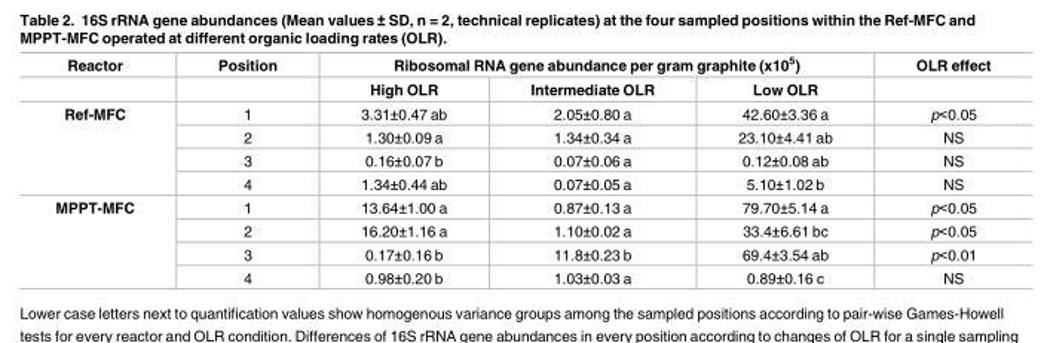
<table><thead><tr><td rowspan="2">Reactor</td><td rowspan="2">Position</td><td colspan="3">Ribosomal RNA gene abundance per gram graphite (x10<sup>5</sup>)</td><td rowspan="2">OLR effect</td></tr><tr><td>High OLR</td><td>Intermediate OLR</td><td>Low OLR</td></tr></thead><tbody><tr><td rowspan="4">Ref-MFC</td><td>1</td><td>3.31±0.47 ab</td><td>2.05±0.80 a</td><td>42.60±3.36 a</td><td>p&lt;0.05</td></tr><tr><td>2</td><td>1.30±0.09 a</td><td>1.34±0.34 a</td><td>23.10±4.41 ab</td><td>NS</td></tr><tr><td>3</td><td>0.16±0.07 b</td><td>0.07±0.06 a</td><td>0.12±0.08 ab</td><td>NS</td></tr><tr><td>4</td><td>1.34±0.44 ab</td><td>0.07±0.05 a</td><td>5.10±1.02 b</td><td>NS</td></tr><tr><td rowspan="4">MPPT-MFC</td><td>1</td><td>13.64±1.00 a</td><td>0.87±0.13 a</td><td>79.70±5.14 a</td><td>p&lt;0.05</td></tr><tr><td>2</td><td>16.20±1.16 a</td><td>1.10±0.02 a</td><td>33.4±6.61 bc</td><td>p&lt;0.05</td></tr><tr><td>3</td><td>0.17±0.16 b</td><td>11.8±0.23 b</td><td>69.4±3.54 ab</td><td>p&lt;0.01</td></tr><tr><td>4</td><td>0.98±0.20 b</td><td>1.03±0.03 a</td><td>0.89±0.16 c</td><td>NS</td></tr></tbody></table>